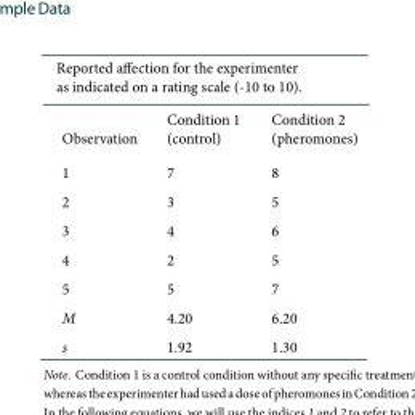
<table><thead><tr><td colspan="3">Reported affection for the experimenter as indicated on a rating scale (-10 to 10).</td></tr><tr><td>Observation</td><td>Condition 1 (control)</td><td>Condition 2 (pheromones)</td></tr></thead><tbody><tr><td>1</td><td>7</td><td>8</td></tr><tr><td>2</td><td>3</td><td>5</td></tr><tr><td>3</td><td>4</td><td>6</td></tr><tr><td>4</td><td>2</td><td>5</td></tr><tr><td>5</td><td>5</td><td>7</td></tr><tr><td>M</td><td>4.20</td><td>6.20</td></tr><tr><td>s</td><td>1.92</td><td>1.30</td></tr></tbody></table>